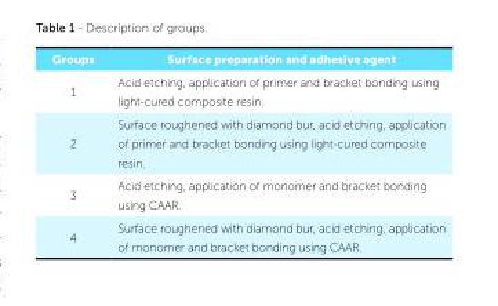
<table><thead><tr><td>Groups</td><td>Surface preparation and adhesive agent</td></tr></thead><tbody><tr><td>1</td><td>Acid etching, application of primer and bracket bonding using light-cured composite resin.</td></tr><tr><td>2</td><td>Surface roughened with diamond bur, acid etching, application of primer and bracket bonding using light-cured composite resin.</td></tr><tr><td>3</td><td>Acid etching, application of monomer and bracket bonding using CAAR.</td></tr><tr><td>4</td><td>Surface roughened with diamond bur, acid etching, application of monomer and bracket bonding using CAAR.</td></tr></tbody></table>